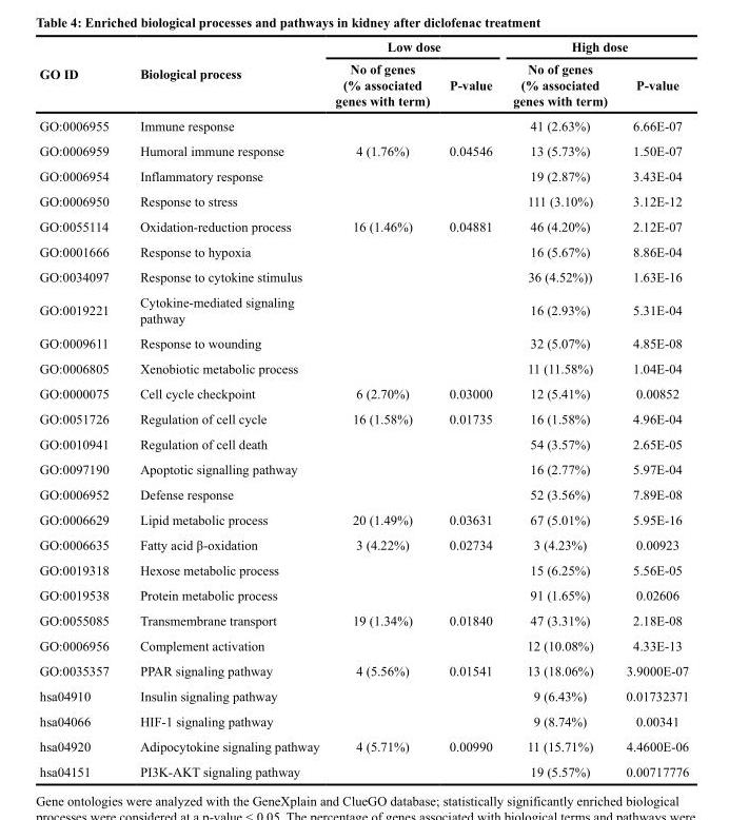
<table><thead><tr><td rowspan="2">GO ID</td><td rowspan="2">Biological process</td><td colspan="2">Low dose</td><td colspan="2">High dose</td></tr><tr><td>No of genes (% associated genes with term)</td><td>P-value</td><td>No of genes (% associated genes with term)</td><td>P-value</td></tr></thead><tbody><tr><td>GO:0006955</td><td>Immune response</td><td></td><td></td><td>41 (2.63%)</td><td>6.66E-07</td></tr><tr><td>GO:0006959</td><td>Humoral immune response</td><td>4 (1.76%)</td><td>0.04546</td><td>13 (5.73%)</td><td>1.50E-07</td></tr><tr><td>GO:0006954</td><td>Inflammatory response</td><td></td><td></td><td>19 (2.87%)</td><td>3.43E-04</td></tr><tr><td>GO:0006950</td><td>Response to stress</td><td></td><td></td><td>111 (3.10%)</td><td>3.12E-12</td></tr><tr><td>GO:0055114</td><td>Oxidation-reduction process</td><td>16 (1.46%)</td><td>0.04881</td><td>46 (4.20%)</td><td>2.12E-07</td></tr><tr><td>GO:0001666</td><td>Response to hypoxia</td><td></td><td></td><td>16 (5.67%)</td><td>8.86E-04</td></tr><tr><td>GO:0034097</td><td>Response to cytokine stimulus</td><td></td><td></td><td>36 (4.52%))</td><td>1.63E-16</td></tr><tr><td>GO:0019221</td><td>Cytokine-mediated signaling pathway</td><td></td><td></td><td>16 (2.93%)</td><td>5.31E-04</td></tr><tr><td>GO:0009611</td><td>Response to wounding</td><td></td><td></td><td>32 (5.07%)</td><td>4.85E-08</td></tr><tr><td>GO:0006805</td><td>Xenobiotic metabolic process</td><td></td><td></td><td>11 (11.58%)</td><td>1.04E-04</td></tr><tr><td>GO:0000075</td><td>Cell cycle checkpoint</td><td>6 (2.70%)</td><td>0.03000</td><td>12 (5.41%)</td><td>0.00852</td></tr><tr><td>GO:0051726</td><td>Regulation of cell cycle</td><td>16 (1.58%)</td><td>0.01735</td><td>16 (1.58%)</td><td>4.96E-04</td></tr><tr><td>GO:0010941</td><td>Regulation of cell death</td><td></td><td></td><td>54 (3.57%)</td><td>2.65E-05</td></tr><tr><td>GO:0097190</td><td>Apoptotic signalling pathway</td><td></td><td></td><td>16 (2.77%)</td><td>5.97E-04</td></tr><tr><td>GO:0006952</td><td>Defense response</td><td></td><td></td><td>52 (3.56%)</td><td>7.89E-08</td></tr><tr><td>GO:0006629</td><td>Lipid metabolic process</td><td>20 (1.49%)</td><td>0.03631</td><td>67 (5.01%)</td><td>5.95E-16</td></tr><tr><td>GO:0006635</td><td>Fatty acid β-oxidation</td><td>3 (4.22%)</td><td>0.02734</td><td>3 (4.23%)</td><td>0.00923</td></tr><tr><td>GO:0019318</td><td>Hexose metabolic process</td><td></td><td></td><td>15 (6.25%)</td><td>5.56E-05</td></tr><tr><td>GO:0019538</td><td>Protein metabolic process</td><td></td><td></td><td>91 (1.65%)</td><td>0.02606</td></tr><tr><td>GO:0055085</td><td>Transmembrane transport</td><td>19 (1.34%)</td><td>0.01840</td><td>47 (3.31%)</td><td>2.18E-08</td></tr><tr><td>GO:0006956</td><td>Complement activation</td><td></td><td></td><td>12 (10.08%)</td><td>4.33E-13</td></tr><tr><td>GO:0035357</td><td>PPAR signaling pathway</td><td>4 (5.56%)</td><td>0.01541</td><td>13 (18.06%)</td><td>3.9000E-07</td></tr><tr><td>hsa04910</td><td>Insulin signaling pathway</td><td></td><td></td><td>9 (6.43%)</td><td>0.01732371</td></tr><tr><td>hsa04066</td><td>HIF-1 signaling pathway</td><td></td><td></td><td>9 (8.74%)</td><td>0.00341</td></tr><tr><td>hsa04920</td><td>Adipocytokine signaling pathway</td><td>4 (5.71%)</td><td>0.00990</td><td>11 (15.71%)</td><td>4.4600E-06</td></tr><tr><td>hsa04151</td><td>PI3K-AKT signaling pathway</td><td></td><td></td><td>19 (5.57%)</td><td>0.00717776</td></tr></tbody></table>